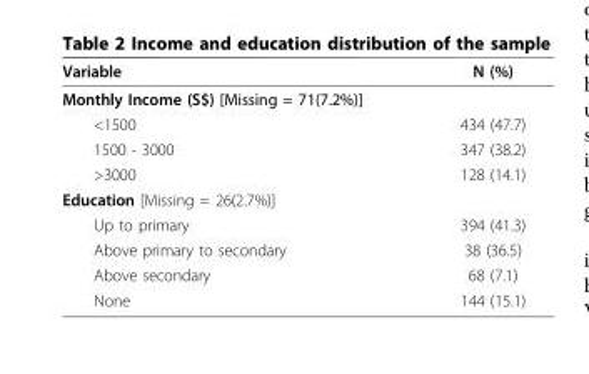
<table><thead><tr><td>Variable</td><td>N (%)</td></tr></thead><tbody><tr><td colspan="2">Monthly Income (S$) [Missing = 71(7.2%)]</td></tr><tr><td>&lt;1500</td><td>434 (47.7)</td></tr><tr><td>1500 - 3000</td><td>347 (38.2)</td></tr><tr><td>&gt;3000</td><td>128 (14.1)</td></tr><tr><td colspan="2">Education [Missing = 26(2.7%)]</td></tr><tr><td>Up to primary</td><td>394 (41.3)</td></tr><tr><td>Above primary to secondary</td><td>38 (36.5)</td></tr><tr><td>Above secondary</td><td>68 (7.1)</td></tr><tr><td>None</td><td>144 (15.1)</td></tr></tbody></table>